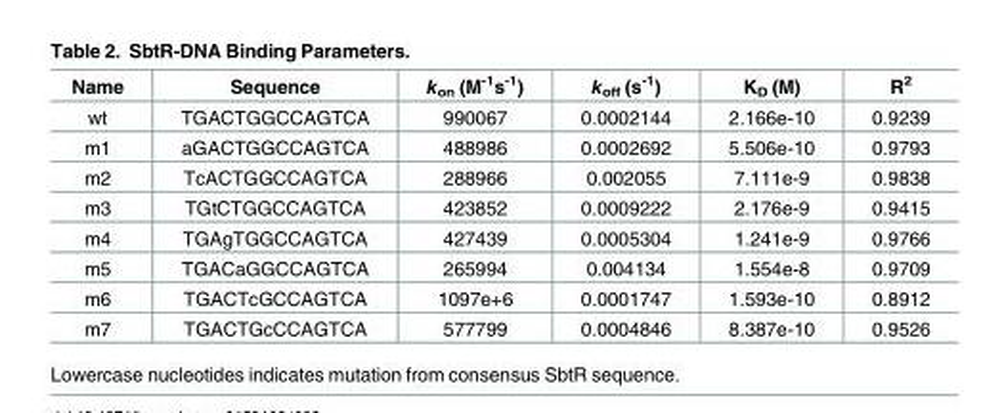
<table><thead><tr><td>Name</td><td>Sequence</td><td>k<sub>on</sub> (M<sup>-1</sup>s<sup>-1</sup>)</td><td>k<sub>off</sub> (s<sup>-1</sup>)</td><td>K<sub>D</sub> (M)</td><td>R<sup>2</sup></td></tr></thead><tbody><tr><td>wt</td><td>TGACTGGCCAGTCA</td><td>990067</td><td>0.0002144</td><td>2.166e-10</td><td>0.9239</td></tr><tr><td>m1</td><td>aGACTGGCCAGTCA</td><td>488986</td><td>0.0002692</td><td>5.506e-10</td><td>0.9793</td></tr><tr><td>m2</td><td>TcACTGGCCAGTCA</td><td>288966</td><td>0.002055</td><td>7.111e-9</td><td>0.9838</td></tr><tr><td>m3</td><td>TGtCTGGCCAGTCA</td><td>423852</td><td>0.0009222</td><td>2.176e-9</td><td>0.9415</td></tr><tr><td>m4</td><td>TGAgTGGCCAGTCA</td><td>427439</td><td>0.0005304</td><td>1.241e-9</td><td>0.9766</td></tr><tr><td>m5</td><td>TGACaGGCCAGTCA</td><td>265994</td><td>0.004134</td><td>1.554e-8</td><td>0.9709</td></tr><tr><td>m6</td><td>TGACTcGCCAGTCA</td><td>1097e+6</td><td>0.0001747</td><td>1.593e-10</td><td>0.8912</td></tr><tr><td>m7</td><td>TGACTGcCCAGTCA</td><td>577799</td><td>0.0004846</td><td>8.387e-10</td><td>0.9526</td></tr></tbody></table>